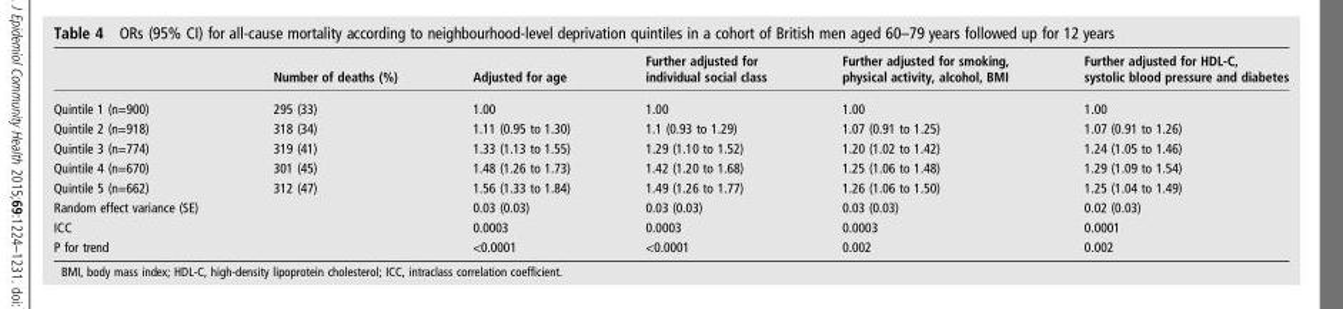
<table><thead><tr><td></td><td>Number of deaths (%)</td><td>Adjusted for age</td><td>Further adjusted for individual social class</td><td>Further adjusted for smoking, physical activity, alcohol, BMI</td><td>Further adjusted for HDL-C, systolic blood pressure and diabetes</td></tr></thead><tbody><tr><td>Quintile 1 (n=900)</td><td>295 (33)</td><td>1.00</td><td>1.00</td><td>1.00</td><td>1.00</td></tr><tr><td>Quintile 2 (n=918)</td><td>318 (34)</td><td>1.11 (0.95 to 1.30)</td><td>1.1 (0.93 to 1.29)</td><td>1.07 (0.91 to 1.25)</td><td>1.07 (0.91 to 1.26)</td></tr><tr><td>Quintile 3 (n=774)</td><td>319 (41)</td><td>1.33 (1.13 to 1.55)</td><td>1.29 (1.10 to 1.52)</td><td>1.20 (1.02 to 1.42)</td><td>1.24 (1.05 to 1.46)</td></tr><tr><td>Quintile 4 (n=670)</td><td>301 (45)</td><td>1.48 (1.26 to 1.73)</td><td>1.42 (1.20 to 1.68)</td><td>1.25 (1.06 to 1.48)</td><td>1.29 (1.09 to 1.54)</td></tr><tr><td>Quintile 5 (n=662)</td><td>312 (47)</td><td>1.56 (1.33 to 1.84)</td><td>1.49 (1.26 to 1.77)</td><td>1.26 (1.06 to 1.50)</td><td>1.25 (1.04 to 1.49)</td></tr><tr><td>Random effect variance (SE)</td><td></td><td>0.03 (0.03)</td><td>0.03 (0.03)</td><td>0.03 (0.03)</td><td>0.02 (0.03)</td></tr><tr><td>ICC</td><td></td><td>0.0003</td><td>0.0003</td><td>0.0003</td><td>0.0001</td></tr><tr><td>P for trend</td><td></td><td>&lt;0.0001</td><td>&lt;0.0001</td><td>0.002</td><td>0.002</td></tr></tbody></table>